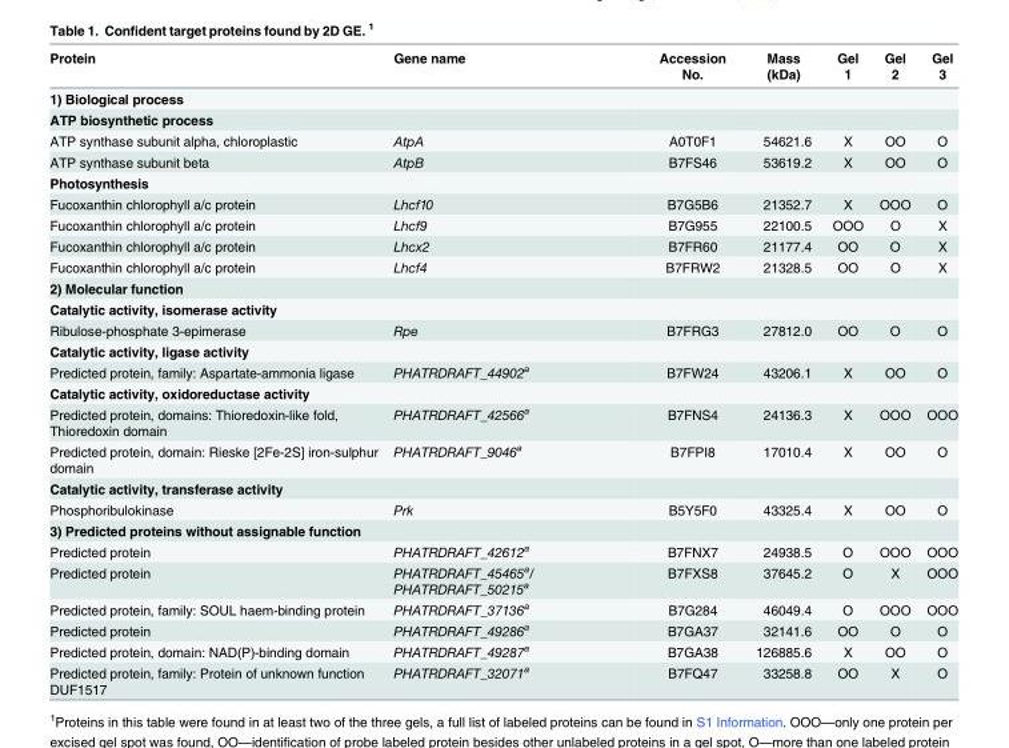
<table><thead><tr><td>Protein</td><td>Gene name</td><td>Accession No.</td><td>Mass (kDa)</td><td>Gel 1</td><td>Gel 2</td><td>Gel 3</td></tr></thead><tbody><tr><td colspan="7">1) Biological process</td></tr><tr><td colspan="7">ATP biosynthetic process</td></tr><tr><td>ATP synthase subunit alpha, chloroplastic</td><td>AtpA</td><td>A0T0F1</td><td>54621.6</td><td>X</td><td>OO</td><td>O</td></tr><tr><td>ATP synthase subunit beta</td><td>AtpB</td><td>B7FS46</td><td>53619.2</td><td>X</td><td>OO</td><td>O</td></tr><tr><td colspan="7">Photosynthesis</td></tr><tr><td>Fucoxanthin chlorophyll a/c protein</td><td>Lhcf10</td><td>B7G5B6</td><td>21352.7</td><td>X</td><td>OOO</td><td>O</td></tr><tr><td>Fucoxanthin chlorophyll a/c protein</td><td>Lhcf9</td><td>B7G955</td><td>22100.5</td><td>OOO</td><td>O</td><td>X</td></tr><tr><td>Fucoxanthin chlorophyll a/c protein</td><td>Lhcx2</td><td>B7FR60</td><td>21177.4</td><td>OO</td><td>O</td><td>X</td></tr><tr><td>Fucoxanthin chlorophyll a/c protein</td><td>Lhcf4</td><td>B7FRW2</td><td>21328.5</td><td>OO</td><td>O</td><td>X</td></tr><tr><td colspan="7">2) Molecular function</td></tr><tr><td colspan="7">Catalytic activity, isomerase activity</td></tr><tr><td>Ribulose-phosphate 3-epimerase</td><td>Rpe</td><td>B7FRG3</td><td>27812.0</td><td>OO</td><td>O</td><td>O</td></tr><tr><td colspan="7">Catalytic activity, ligase activity</td></tr><tr><td>Predicted protein, family: Aspartate-ammonia ligase</td><td>PHATRDRAFT_44902<sup>a</sup></td><td>B7FW24</td><td>43206.1</td><td>X</td><td>OO</td><td>O</td></tr><tr><td colspan="7">Catalytic activity, oxidoreductase activity</td></tr><tr><td>Predicted protein, domains: Thioredoxin-like fold, Thioredoxin domain</td><td>PHATRDRAFT_42566<sup>a</sup></td><td>B7FNS4</td><td>24136.3</td><td>X</td><td>OOO</td><td>OOO</td></tr><tr><td>Predicted protein, domain: Rieske [2Fe-2S] iron-sulphur domain</td><td>PHATRDRAFT_9046<sup>a</sup></td><td>B7FPI8</td><td>17010.4</td><td>X</td><td>OO</td><td>O</td></tr><tr><td colspan="7">Catalytic activity, transferase activity</td></tr><tr><td>Phosphoribulokinase</td><td>Prk</td><td>B5Y5F0</td><td>43325.4</td><td>X</td><td>OO</td><td>O</td></tr><tr><td colspan="7">3) Predicted proteins without assignable function</td></tr><tr><td>Predicted protein</td><td>PHATRDRAFT_42612<sup>a</sup></td><td>B7FNX7</td><td>24938.5</td><td>O</td><td>OOO</td><td>OOO</td></tr><tr><td>Predicted protein</td><td>PHATRDRAFT_45465<sup>a</sup>/ PHATRDRAFT_50215<sup>a</sup></td><td>B7FXS8</td><td>37645.2</td><td>O</td><td>X</td><td>OOO</td></tr><tr><td>Predicted protein, family: SOUL haem-binding protein</td><td>PHATRDRAFT_37136<sup>a</sup></td><td>B7G284</td><td>46049.4</td><td>O</td><td>OOO</td><td>OOO</td></tr><tr><td>Predicted protein</td><td>PHATRDRAFT_49286<sup>a</sup></td><td>B7GA37</td><td>32141.6</td><td>OO</td><td>O</td><td>O</td></tr><tr><td>Predicted protein, domain: NAD(P)-binding domain</td><td>PHATRDRAFT_49287<sup>a</sup></td><td>B7GA38</td><td>126885.6</td><td>X</td><td>OO</td><td>O</td></tr><tr><td>Predicted protein, family: Protein of unknown function DUF1517</td><td>PHATRDRAFT_32071<sup>a</sup></td><td>B7FQ47</td><td>33258.8</td><td>OO</td><td>X</td><td>O</td></tr></tbody></table>